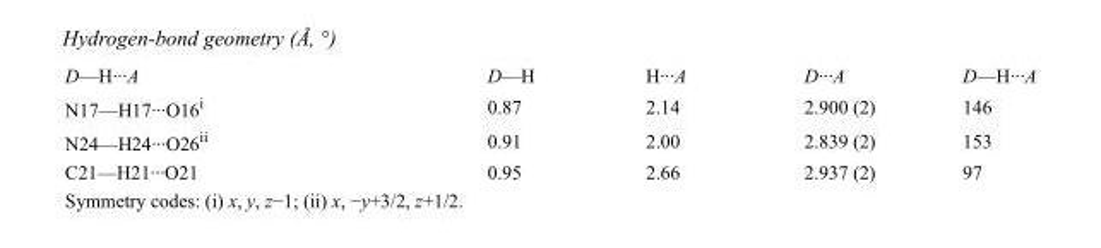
<table><tbody><tr><td>D—H···A</td><td>D—H</td><td>H···A</td><td>D···A</td><td>D—H···A</td></tr><tr><td>N17—H17···O16<sup>i</sup></td><td>0.87</td><td>2.14</td><td>2.900 (2)</td><td>146</td></tr><tr><td>N24—H24···O26<sup>ii</sup></td><td>0.91</td><td>2.00</td><td>2.839 (2)</td><td>153</td></tr><tr><td>C21—H21···O21</td><td>0.95</td><td>2.66</td><td>2.937 (2)</td><td>97</td></tr></tbody></table>